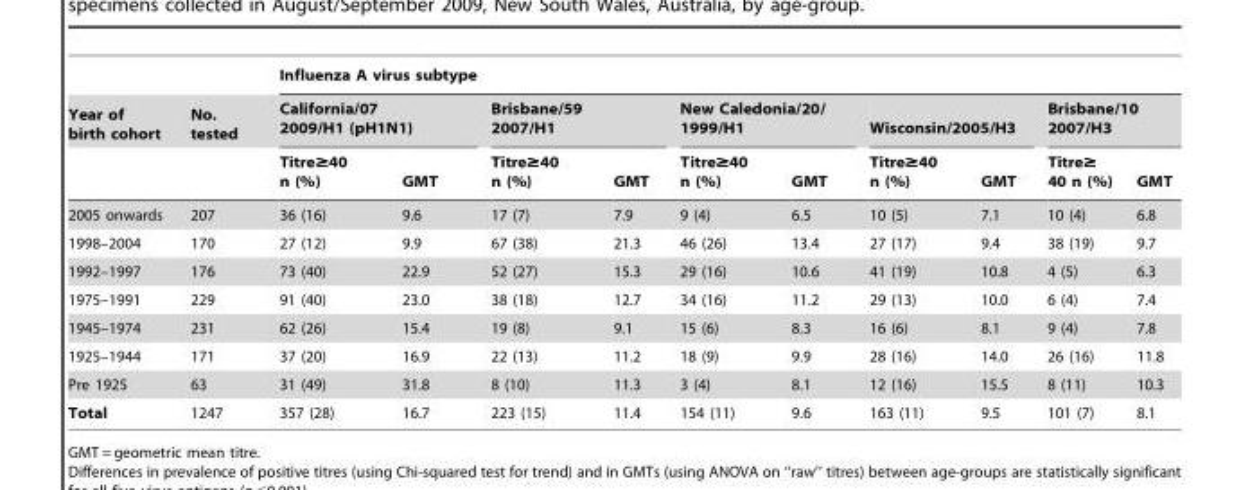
<table><thead><tr><td rowspan="3">Year of birth cohort</td><td rowspan="3">No. tested</td><td colspan="10">Influenza A virus subtype</td></tr><tr><td colspan="2">California/07 2009/H1 (pH1N1)</td><td colspan="2">Brisbane/59 2007/H1</td><td colspan="2">New Caledonia/20/ 1999/H1</td><td colspan="2">Wisconsin/2005/H3</td><td colspan="2">Brisbane/10 2007/H3</td></tr><tr><td>Titre≥40 n (%)</td><td>GMT</td><td>Titre≥40 n (%)</td><td>GMT</td><td>Titre≥40 n (%)</td><td>GMT</td><td>Titre≥40 n (%)</td><td>GMT</td><td>Titre≥ 40 n (%)</td><td>GMT</td></tr></thead><tbody><tr><td>2005 onwards</td><td>207</td><td>36 (16)</td><td>9.6</td><td>17 (7)</td><td>7.9</td><td>9 (4)</td><td>6.5</td><td>10 (5)</td><td>7.1</td><td>10 (4)</td><td>6.8</td></tr><tr><td>1998–2004</td><td>170</td><td>27 (12)</td><td>9.9</td><td>67 (38)</td><td>21.3</td><td>46 (26)</td><td>13.4</td><td>27 (17)</td><td>9.4</td><td>38 (19)</td><td>9.7</td></tr><tr><td>1992–1997</td><td>176</td><td>73 (40)</td><td>22.9</td><td>52 (27)</td><td>15.3</td><td>29 (16)</td><td>10.6</td><td>41 (19)</td><td>10.8</td><td>4 (5)</td><td>6.3</td></tr><tr><td>1975–1991</td><td>229</td><td>91 (40)</td><td>23.0</td><td>38 (18)</td><td>12.7</td><td>34 (16)</td><td>11.2</td><td>29 (13)</td><td>10.0</td><td>6 (4)</td><td>7.4</td></tr><tr><td>1945–1974</td><td>231</td><td>62 (26)</td><td>15.4</td><td>19 (8)</td><td>9.1</td><td>15 (6)</td><td>8.3</td><td>16 (6)</td><td>8.1</td><td>9 (4)</td><td>7.8</td></tr><tr><td>1925–1944</td><td>171</td><td>37 (20)</td><td>16.9</td><td>22 (13)</td><td>11.2</td><td>18 (9)</td><td>9.9</td><td>28 (16)</td><td>14.0</td><td>26 (16)</td><td>11.8</td></tr><tr><td>Pre 1925</td><td>63</td><td>31 (49)</td><td>31.8</td><td>8 (10)</td><td>11.3</td><td>3 (4)</td><td>8.1</td><td>12 (16)</td><td>15.5</td><td>8 (11)</td><td>10.3</td></tr><tr><td>Total</td><td>1247</td><td>357 (28)</td><td>16.7</td><td>223 (15)</td><td>11.4</td><td>154 (11)</td><td>9.6</td><td>163 (11)</td><td>9.5</td><td>101 (7)</td><td>8.1</td></tr></tbody></table>